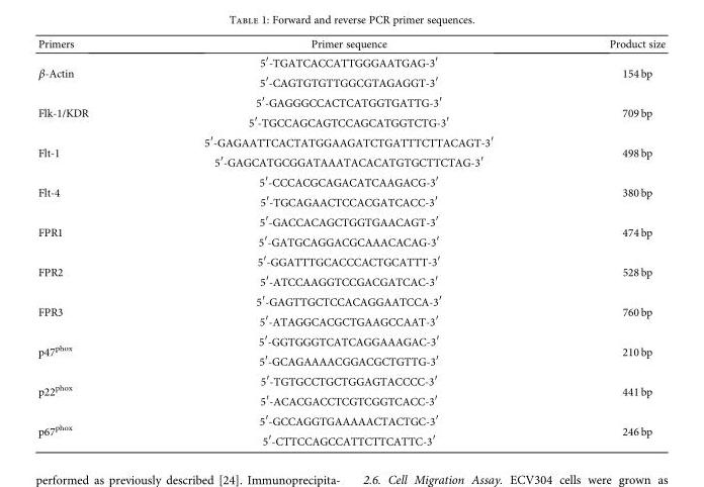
<table><thead><tr><td>Primers</td><td>Primer sequence</td><td>Product size</td></tr></thead><tbody><tr><td rowspan="2">β-Actin</td><td>5′-TGATCACCATTGGGAATGAG-3′</td><td rowspan="2">154 bp</td></tr><tr><td>5′-CAGTGTGTTGGCGTAGAGGT-3′</td></tr><tr><td rowspan="2">Flk-1/KDR</td><td>5′-GAGGGCCACTCATGGTGATTG-3′</td><td rowspan="2">709 bp</td></tr><tr><td>5′-TGCCAGCAGTCCAGCATGGTCTG-3′</td></tr><tr><td rowspan="2">Flt-1</td><td>5′-GAGAATTCACTATGGAAGATCTGATTTCTTACAGT-3′</td><td rowspan="2">498 bp</td></tr><tr><td>5′-GAGCATGCGGATAAATACACATGTGCTTCTAG-3′</td></tr><tr><td rowspan="2">Flt-4</td><td>5′-CCCACGCAGACATCAAGACG-3′</td><td rowspan="2">380 bp</td></tr><tr><td>5′-TGCAGAACTCCACGATCACC-3′</td></tr><tr><td rowspan="2">FPR1</td><td>5′-GACCACAGCTGGTGAACAGT-3′</td><td rowspan="2">474 bp</td></tr><tr><td>5′-GATGCAGGACGCAAACACAG-3′</td></tr><tr><td rowspan="2">FPR2</td><td>5′-GGATTTGCACCCACTGCATTT-3′</td><td rowspan="2">528 bp</td></tr><tr><td>5′-ATCCAAGGTCCGACGATCAC-3′</td></tr><tr><td rowspan="2">FPR3</td><td>5′-GAGTTGCTCCACAGGAATCCA-3′</td><td rowspan="2">760 bp</td></tr><tr><td>5′-ATAGGCACGCTGAAGCCAAT-3′</td></tr><tr><td rowspan="2">p47<sup>phox</sup></td><td>5′-GGTGGGTCATCAGGAAAGAC-3′</td><td rowspan="2">210 bp</td></tr><tr><td>5′-GCAGAAAACGGACGCTGTTG-3′</td></tr><tr><td rowspan="2">p22<sup>phox</sup></td><td>5′-TGTGCCTGCTGGAGTACCCC-3′</td><td rowspan="2">441 bp</td></tr><tr><td>5′-ACACGACCTCGTCGGTCACC-3′</td></tr><tr><td rowspan="2">p67<sup>phox</sup></td><td>5′-GCCAGGTGAAAAACTACTGC-3′</td><td rowspan="2">246 bp</td></tr><tr><td>5′-CTTCCAGCCATTCTTCATTC-3′</td></tr></tbody></table>